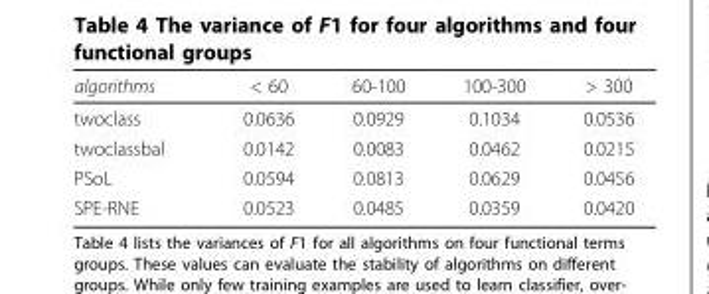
<table><thead><tr><td>algorithms</td><td>&lt; 60</td><td>60-100</td><td>100-300</td><td>&gt; 300</td></tr></thead><tbody><tr><td>twoclass</td><td>0.0636</td><td>0.0929</td><td>0.1034</td><td>0.0536</td></tr><tr><td>twoclassbal</td><td>0.0142</td><td>0.0083</td><td>0.0462</td><td>0.0215</td></tr><tr><td>PSoL</td><td>0.0594</td><td>0.0813</td><td>0.0629</td><td>0.0456</td></tr><tr><td>SPE-RNE</td><td>0.0523</td><td>0.0485</td><td>0.0359</td><td>0.0420</td></tr></tbody></table>